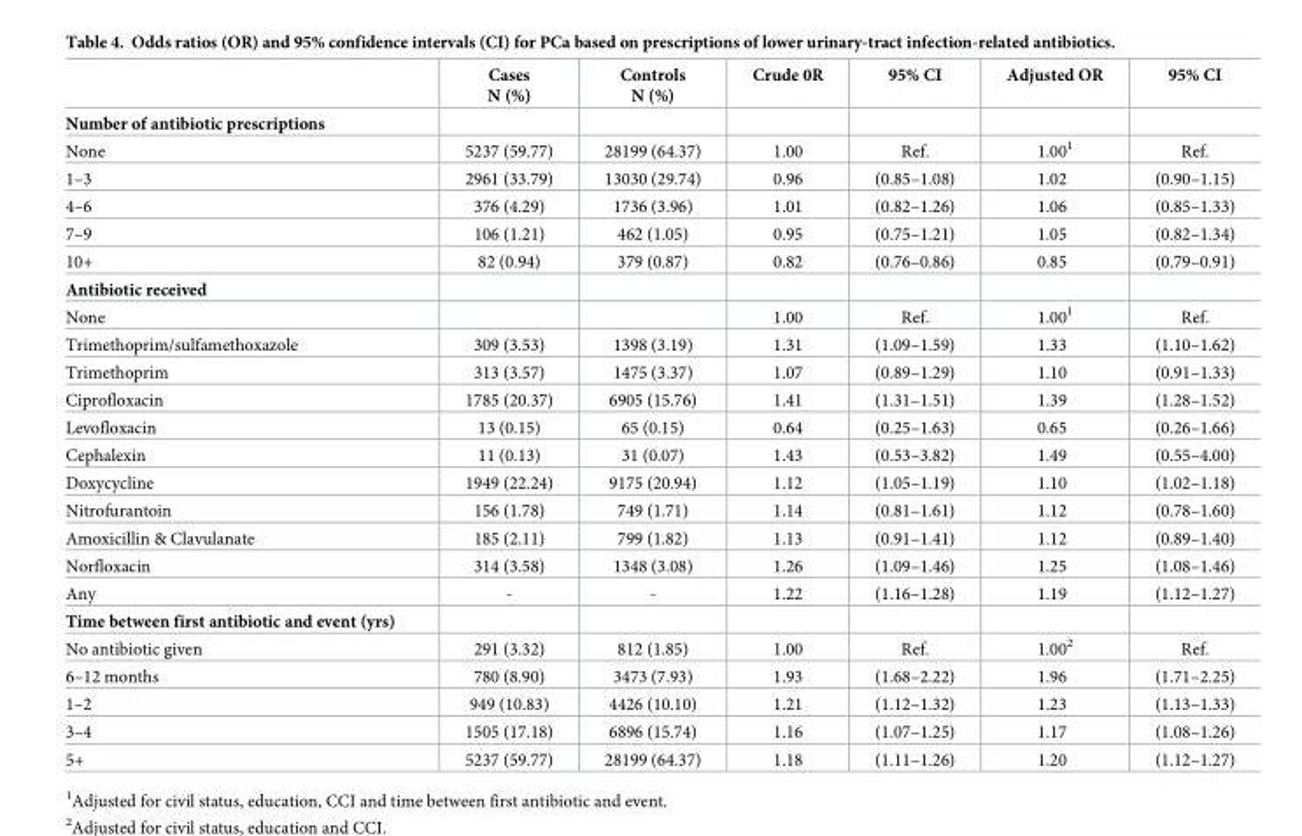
<table><thead><tr><td></td><td>Cases N (%)</td><td>Controls N (%)</td><td>Crude 0R</td><td>95% CI</td><td>Adjusted OR</td><td>95% CI</td></tr></thead><tbody><tr><td colspan="7">Number of antibiotic prescriptions</td></tr><tr><td>None</td><td>5237 (59.77)</td><td>28199 (64.37)</td><td>1.00</td><td>Ref.</td><td>1.00<sup>1</sup></td><td>Ref.</td></tr><tr><td>1–3</td><td>2961 (33.79)</td><td>13030 (29.74)</td><td>0.96</td><td>(0.85–1.08)</td><td>1.02</td><td>(0.90–1.15)</td></tr><tr><td>4–6</td><td>376 (4.29)</td><td>1736 (3.96)</td><td>1.01</td><td>(0.82–1.26)</td><td>1.06</td><td>(0.85–1.33)</td></tr><tr><td>7–9</td><td>106 (1.21)</td><td>462 (1.05)</td><td>0.95</td><td>(0.75–1.21)</td><td>1.05</td><td>(0.82–1.34)</td></tr><tr><td>10+</td><td>82 (0.94)</td><td>379 (0.87)</td><td>0.82</td><td>(0.76–0.86)</td><td>0.85</td><td>(0.79–0.91)</td></tr><tr><td colspan="7">Antibiotic received</td></tr><tr><td>None</td><td></td><td></td><td>1.00</td><td>Ref.</td><td>1.00<sup>1</sup></td><td>Ref.</td></tr><tr><td>Trimethoprim/sulfamethoxazole</td><td>309 (3.53)</td><td>1398 (3.19)</td><td>1.31</td><td>(1.09–1.59)</td><td>1.33</td><td>(1.10–1.62)</td></tr><tr><td>Trimethoprim</td><td>313 (3.57)</td><td>1475 (3.37)</td><td>1.07</td><td>(0.89–1.29)</td><td>1.10</td><td>(0.91–1.33)</td></tr><tr><td>Ciprofloxacin</td><td>1785 (20.37)</td><td>6905 (15.76)</td><td>1.41</td><td>(1.31–1.51)</td><td>1.39</td><td>(1.28–1.52)</td></tr><tr><td>Levofloxacin</td><td>13 (0.15)</td><td>65 (0.15)</td><td>0.64</td><td>(0.25–1.63)</td><td>0.65</td><td>(0.26–1.66)</td></tr><tr><td>Cephalexin</td><td>11 (0.13)</td><td>31 (0.07)</td><td>1.43</td><td>(0.53–3.82)</td><td>1.49</td><td>(0.55–4.00)</td></tr><tr><td>Doxycycline</td><td>1949 (22.24)</td><td>9175 (20.94)</td><td>1.12</td><td>(1.05–1.19)</td><td>1.10</td><td>(1.02–1.18)</td></tr><tr><td>Nitrofurantoin</td><td>156 (1.78)</td><td>749 (1.71)</td><td>1.14</td><td>(0.81–1.61)</td><td>1.12</td><td>(0.78–1.60)</td></tr><tr><td>Amoxicillin &amp; Clavulanate</td><td>185 (2.11)</td><td>799 (1.82)</td><td>1.13</td><td>(0.91–1.41)</td><td>1.12</td><td>(0.89–1.40)</td></tr><tr><td>Norfloxacin</td><td>314 (3.58)</td><td>1348 (3.08)</td><td>1.26</td><td>(1.09–1.46)</td><td>1.25</td><td>(1.08–1.46)</td></tr><tr><td>Any</td><td>-</td><td>-</td><td>1.22</td><td>(1.16–1.28)</td><td>1.19</td><td>(1.12–1.27)</td></tr><tr><td colspan="7">Time between first antibiotic and event (yrs)</td></tr><tr><td>No antibiotic given</td><td>291 (3.32)</td><td>812 (1.85)</td><td>1.00</td><td>Ref.</td><td>1.00<sup>2</sup></td><td>Ref.</td></tr><tr><td>6–12 months</td><td>780 (8.90)</td><td>3473 (7.93)</td><td>1.93</td><td>(1.68–2.22)</td><td>1.96</td><td>(1.71–2.25)</td></tr><tr><td>1–2</td><td>949 (10.83)</td><td>4426 (10.10)</td><td>1.21</td><td>(1.12–1.32)</td><td>1.23</td><td>(1.13–1.33)</td></tr><tr><td>3–4</td><td>1505 (17.18)</td><td>6896 (15.74)</td><td>1.16</td><td>(1.07–1.25)</td><td>1.17</td><td>(1.08–1.26)</td></tr><tr><td>5+</td><td>5237 (59.77)</td><td>28199 (64.37)</td><td>1.18</td><td>(1.11–1.26)</td><td>1.20</td><td>(1.12–1.27)</td></tr></tbody></table>